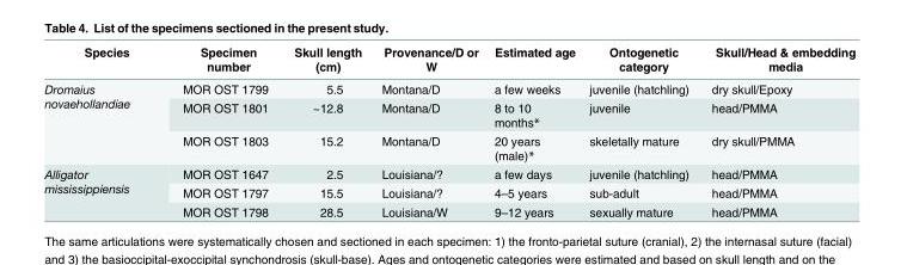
<table><thead><tr><td>Species</td><td>Specimen number</td><td>Skull length (cm)</td><td>Provenance/D or W</td><td>Estimated age</td><td>Ontogenetic category</td><td>Skull/Head &amp; embedding media</td></tr></thead><tbody><tr><td rowspan="3">Dromaius novaehollandiae</td><td>MOR OST 1799</td><td>5.5</td><td>Montana/D</td><td>a few weeks</td><td>juvenile (hatchling)</td><td>dry skull/Epoxy</td></tr><tr><td>MOR OST 1801</td><td>~12.8</td><td>Montana/D</td><td>8 to 10 months*</td><td>juvenile</td><td>head/PMMA</td></tr><tr><td>MOR OST 1803</td><td>15.2</td><td>Montana/D</td><td>20 years (male)*</td><td>skeletally mature</td><td>dry skull/PMMA</td></tr><tr><td rowspan="3">Alligator mississippiensis</td><td>MOR OST 1647</td><td>2.5</td><td>Louisiana/?</td><td>a few days</td><td>juvenile (hatchling)</td><td>head/PMMA</td></tr><tr><td>MOR OST 1797</td><td>15.5</td><td>Louisiana/?</td><td>4–5 years</td><td>sub-adult</td><td>head/PMMA</td></tr><tr><td>MOR OST 1798</td><td>28.5</td><td>Louisiana/W</td><td>9–12 years</td><td>sexually mature</td><td>head/PMMA</td></tr></tbody></table>